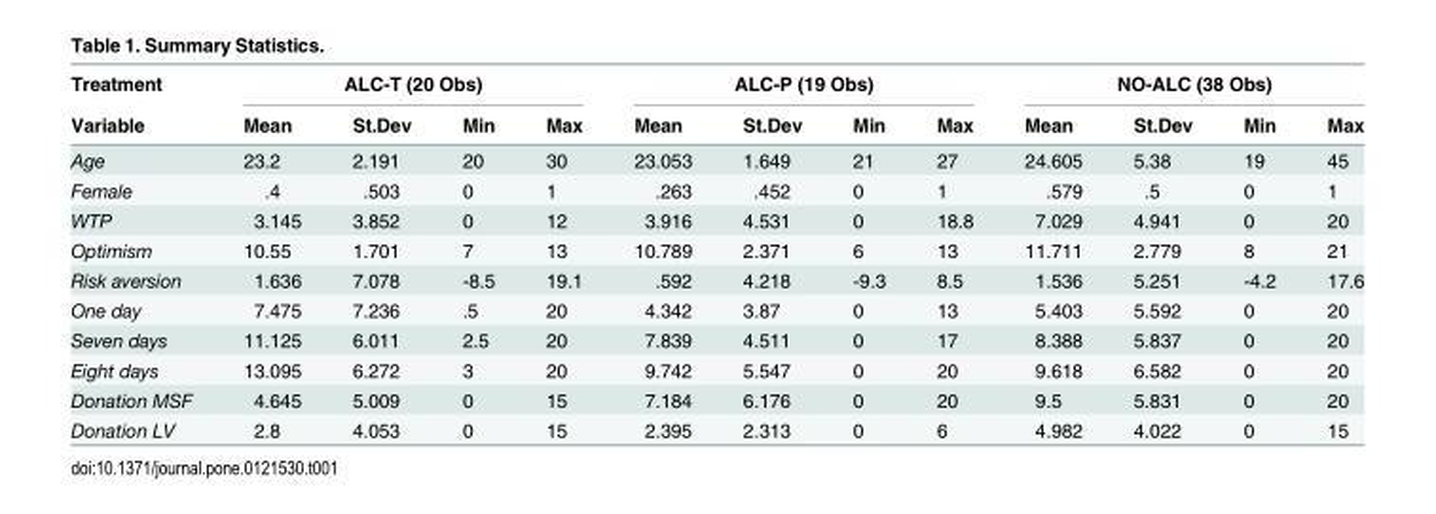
<table><thead><tr><td rowspan="2">Treatment Variable</td><td colspan="4">ALC-T (20 Obs)</td><td colspan="4">ALC-P (19 Obs)</td><td colspan="4">NO-ALC (38 Obs)</td></tr><tr><td>Mean</td><td>St.Dev</td><td>Min</td><td>Max</td><td>Mean</td><td>St.Dev</td><td>Min</td><td>Max</td><td>Mean</td><td>St.Dev</td><td>Min</td><td>Max</td></tr></thead><tbody><tr><td>Age</td><td>23.2</td><td>2.191</td><td>20</td><td>30</td><td>23.053</td><td>1.649</td><td>21</td><td>27</td><td>24.605</td><td>5.38</td><td>19</td><td>45</td></tr><tr><td>Female</td><td>.4</td><td>.503</td><td>0</td><td>1</td><td>.263</td><td>.452</td><td>0</td><td>1</td><td>.579</td><td>.5</td><td>0</td><td>1</td></tr><tr><td>WTP</td><td>3.145</td><td>3.852</td><td>0</td><td>12</td><td>3.916</td><td>4.531</td><td>0</td><td>18.8</td><td>7.029</td><td>4.941</td><td>0</td><td>20</td></tr><tr><td>Optimism</td><td>10.55</td><td>1.701</td><td>7</td><td>13</td><td>10.789</td><td>2.371</td><td>6</td><td>13</td><td>11.711</td><td>2.779</td><td>8</td><td>21</td></tr><tr><td>Risk aversion</td><td>1.636</td><td>7.078</td><td>-8.5</td><td>19.1</td><td>.592</td><td>4.218</td><td>-9.3</td><td>8.5</td><td>1.536</td><td>5.251</td><td>-4.2</td><td>17.6</td></tr><tr><td>One day</td><td>7.475</td><td>7.236</td><td>.5</td><td>20</td><td>4.342</td><td>3.87</td><td>0</td><td>13</td><td>5.403</td><td>5.592</td><td>0</td><td>20</td></tr><tr><td>Seven days</td><td>11.125</td><td>6.011</td><td>2.5</td><td>20</td><td>7.839</td><td>4.511</td><td>0</td><td>17</td><td>8.388</td><td>5.837</td><td>0</td><td>20</td></tr><tr><td>Eight days</td><td>13.095</td><td>6.272</td><td>3</td><td>20</td><td>9.742</td><td>5.547</td><td>0</td><td>20</td><td>9.618</td><td>6.582</td><td>0</td><td>20</td></tr><tr><td>Donation MSF</td><td>4.645</td><td>5.009</td><td>0</td><td>15</td><td>7.184</td><td>6.176</td><td>0</td><td>20</td><td>9.5</td><td>5.831</td><td>0</td><td>20</td></tr><tr><td>Donation LV</td><td>2.8</td><td>4.053</td><td>0</td><td>15</td><td>2.395</td><td>2.313</td><td>0</td><td>6</td><td>4.982</td><td>4.022</td><td>0</td><td>15</td></tr></tbody></table>